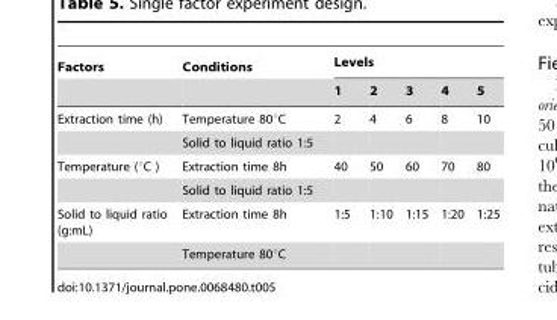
<table><thead><tr><td rowspan="2">Factors</td><td rowspan="2">Conditions</td><td colspan="5">Levels</td></tr><tr><td>1</td><td>2</td><td>3</td><td>4</td><td>5</td></tr></thead><tbody><tr><td rowspan="2">Extraction time (h)</td><td>Temperature 80°C</td><td>2</td><td>4</td><td>6</td><td>8</td><td>10</td></tr><tr><td>Solid to liquid ratio 1:5</td><td></td><td></td><td></td><td></td><td></td></tr><tr><td rowspan="2">Temperature (°C )</td><td>Extraction time 8h</td><td>40</td><td>50</td><td>60</td><td>70</td><td>80</td></tr><tr><td>Solid to liquid ratio 1:5</td><td></td><td></td><td></td><td></td><td></td></tr><tr><td rowspan="2">Solid to liquid ratio (g:mL)</td><td>Extraction time 8h</td><td>1:5</td><td>1:10</td><td>1:15</td><td>1:20</td><td>1:25</td></tr><tr><td>Temperature 80°C</td><td></td><td></td><td></td><td></td><td></td></tr></tbody></table>